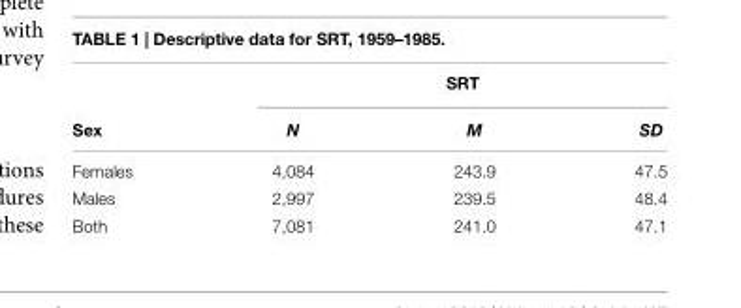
<table><thead><tr><td rowspan="2">Sex</td><td colspan="3">SRT</td></tr><tr><td>N</td><td>M</td><td>SD</td></tr></thead><tbody><tr><td>Females</td><td>4,084</td><td>243.9</td><td>47.5</td></tr><tr><td>Males</td><td>2,997</td><td>239.5</td><td>48.4</td></tr><tr><td>Both</td><td>7,081</td><td>241.0</td><td>47.1</td></tr></tbody></table>